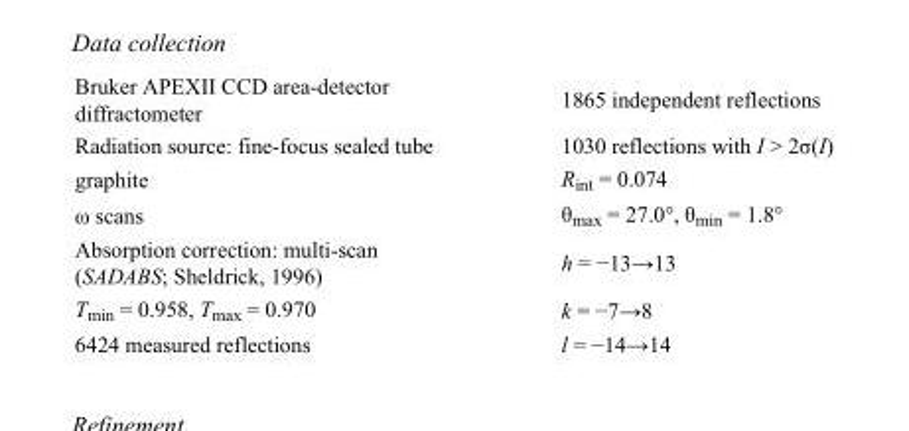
<table><tbody><tr><td>Bruker APEXII CCD area-detector diffractometer</td><td>1865 independent reflections</td></tr><tr><td>Radiation source: fine-focus sealed tube</td><td>1030 reflections with I &gt; 2σ(I)</td></tr><tr><td>graphite</td><td>R<sub>int</sub> = 0.074</td></tr><tr><td>ω scans</td><td>θ<sub>max</sub> = 27.0°, θ<sub>min</sub> = 1.8°</td></tr><tr><td>Absorption correction: multi-scan (SADABS; Sheldrick, 1996)</td><td>h = −13→13</td></tr><tr><td>T<sub>min</sub> = 0.958, T<sub>max</sub> = 0.970</td><td>k = −7→8</td></tr><tr><td>6424 measured reflections</td><td>l = −14→14</td></tr></tbody></table>